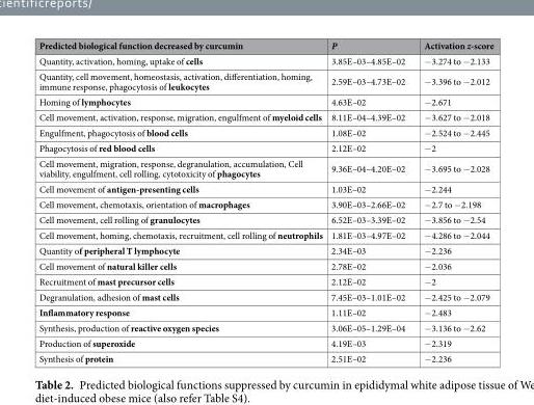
<table><thead><tr><td>Predicted biological function decreased by curcumin</td><td>P</td><td>Activation z-score</td></tr></thead><tbody><tr><td>Quantity, activation, homing, uptake of cells</td><td>3.85E–03–4.85E–02</td><td>−3.274 to −2.133</td></tr><tr><td>Quantity, cell movement, homeostasis, activation, differentiation, homing, immune response, phagocytosis of leukocytes</td><td>2.59E–03–4.73E–02</td><td>−3.396 to −2.012</td></tr><tr><td>Homing of lymphocytes</td><td>4.63E–02</td><td>−2.671</td></tr><tr><td>Cell movement, activation, response, migration, engulfment of myeloid cells</td><td>8.11E–04–4.39E–02</td><td>−3.627 to −2.018</td></tr><tr><td>Engulfment, phagocytosis of blood cells</td><td>1.08E–02</td><td>−2.524 to −2.445</td></tr><tr><td>Phagocytosis of red blood cells</td><td>2.12E–02</td><td>−2</td></tr><tr><td>Cell movement, migration, response, degranulation, accumulation, Cell viability, engulfment, cell rolling, cytotoxicity of phagocytes</td><td>9.36E–04–4.20E–02</td><td>−3.695 to −2.028</td></tr><tr><td>Cell movement of antigen-presenting cells</td><td>1.03E–02</td><td>−2.244</td></tr><tr><td>Cell movement, chemotaxis, orientation of macrophages</td><td>3.90E–03–2.66E–02</td><td>−2.7 to −2.198</td></tr><tr><td>Cell movement, cell rolling of granulocytes</td><td>6.52E–03–3.39E–02</td><td>−3.856 to −2.54</td></tr><tr><td>Cell movement, homing, chemotaxis, recruitment, cell rolling of neutrophils</td><td>1.81E–03–4.97E–02</td><td>−4.286 to −2.044</td></tr><tr><td>Quantity of peripheral T lymphocyte</td><td>2.34E–03</td><td>−2.236</td></tr><tr><td>Cell movement of natural killer cells</td><td>2.78E–02</td><td>−2.036</td></tr><tr><td>Recruitment of mast precursor cells</td><td>2.12E–02</td><td>−2</td></tr><tr><td>Degranulation, adhesion of mast cells</td><td>7.45E–03–1.01E–02</td><td>−2.425 to −2.079</td></tr><tr><td>Inflammatory response</td><td>1.11E–02</td><td>−2.483</td></tr><tr><td>Synthesis, production of reactive oxygen species</td><td>3.06E–05–1.29E–04</td><td>−3.136 to −2.62</td></tr><tr><td>Production of superoxide</td><td>4.19E–03</td><td>−2.319</td></tr><tr><td>Synthesis of protein</td><td>2.51E–02</td><td>−2.236</td></tr></tbody></table>